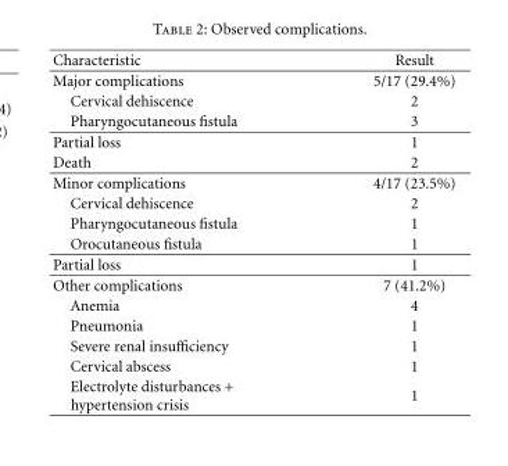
<table><thead><tr><td>Characteristic</td><td>Result</td></tr></thead><tbody><tr><td>Major complications</td><td>5/17 (29.4%)</td></tr><tr><td>Cervical dehiscence</td><td>2</td></tr><tr><td>Pharyngocutaneous fistula</td><td>3</td></tr><tr><td>Partial loss</td><td>1</td></tr><tr><td>Death</td><td>2</td></tr><tr><td>Minor complications</td><td>4/17 (23.5%)</td></tr><tr><td>Cervical dehiscence</td><td>2</td></tr><tr><td>Pharyngocutaneous fistula</td><td>1</td></tr><tr><td>Orocutaneous fistula</td><td>1</td></tr><tr><td>Partial loss</td><td>1</td></tr><tr><td>Other complications</td><td>7 (41.2%)</td></tr><tr><td>Anemia</td><td>4</td></tr><tr><td>Pneumonia</td><td>1</td></tr><tr><td>Severe renal insufficiency</td><td>1</td></tr><tr><td>Cervical abscess</td><td>1</td></tr><tr><td>Electrolyte disturbances + hypertension crisis</td><td>1</td></tr></tbody></table>